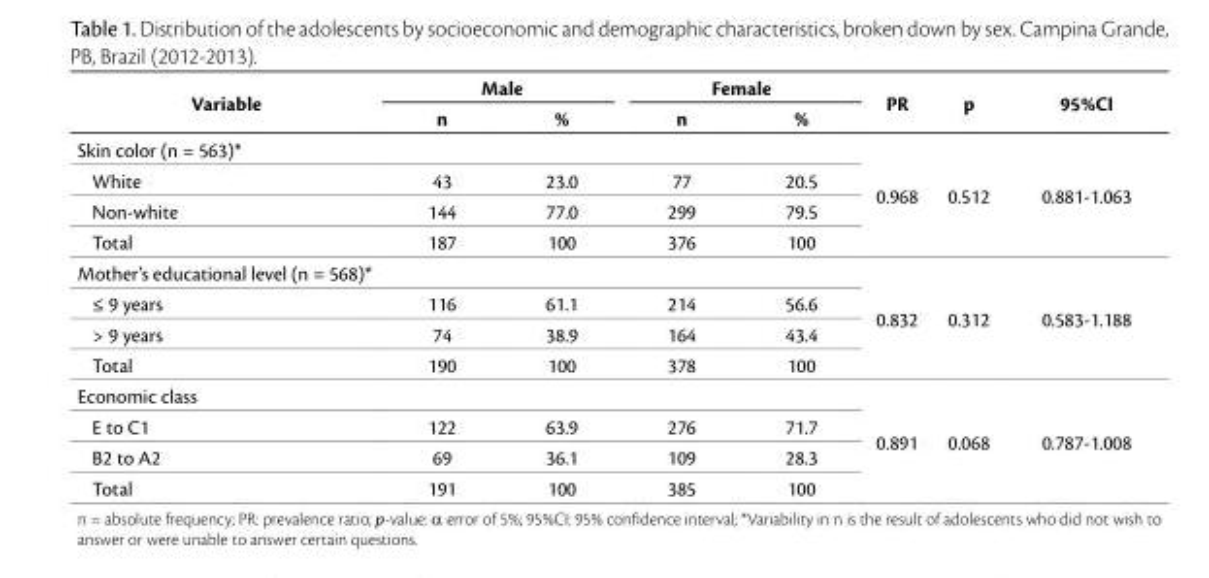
<table><thead><tr><td rowspan="2">Variable</td><td colspan="2">Male</td><td colspan="2">Female</td><td rowspan="2">PR</td><td rowspan="2">p</td><td rowspan="2">95%CI</td></tr><tr><td>n</td><td>%</td><td>n</td><td>%</td></tr></thead><tbody><tr><td colspan="5">Skin color (n = 563)*</td><td rowspan="4">0.968</td><td rowspan="4">0.512</td><td rowspan="4">0.881-1.063</td></tr><tr><td>White</td><td>43</td><td>23.0</td><td>77</td><td>20.5</td></tr><tr><td>Non-white</td><td>144</td><td>77.0</td><td>299</td><td>79.5</td></tr><tr><td>Total</td><td>187</td><td>100</td><td>376</td><td>100</td></tr><tr><td colspan="5">Mother’s educational level (n = 568)*</td><td rowspan="4">0.832</td><td rowspan="4">0.312</td><td rowspan="4">0.583-1.188</td></tr><tr><td>≤ 9 years</td><td>116</td><td>61.1</td><td>214</td><td>56.6</td></tr><tr><td>&gt; 9 years</td><td>74</td><td>38.9</td><td>164</td><td>43.4</td></tr><tr><td>Total</td><td>190</td><td>100</td><td>378</td><td>100</td></tr><tr><td colspan="5">Economic class</td><td rowspan="4">0.891</td><td rowspan="4">0.068</td><td rowspan="4">0.787-1.008</td></tr><tr><td>E to C1</td><td>122</td><td>63.9</td><td>276</td><td>71.7</td></tr><tr><td>B2 to A2</td><td>69</td><td>36.1</td><td>109</td><td>28.3</td></tr><tr><td>Total</td><td>191</td><td>100</td><td>385</td><td>100</td></tr></tbody></table>